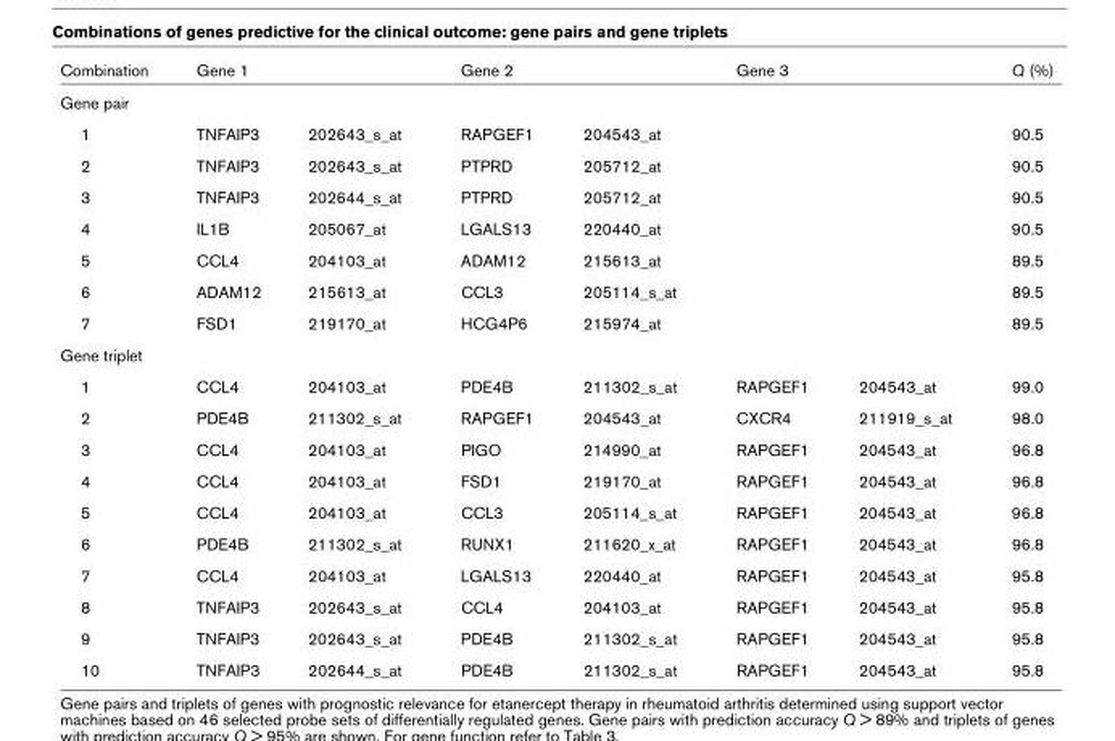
<table><thead><tr><td rowspan="2">Combination Gene pair</td><td colspan="2">Gene 1</td><td colspan="2">Gene 2</td><td colspan="2">Gene 3</td><td rowspan="2">Q (%)</td></tr><tr><td></td><td></td><td></td><td></td><td></td><td></td></tr></thead><tbody><tr><td>1</td><td>TNFAIP3</td><td>202643_s_at</td><td>RAPGEF1</td><td>204543_at</td><td></td><td></td><td>90.5</td></tr><tr><td>2</td><td>TNFAIP3</td><td>202643_s_at</td><td>PTPRD</td><td>205712_at</td><td></td><td></td><td>90.5</td></tr><tr><td>3</td><td>TNFAIP3</td><td>202644_s_at</td><td>PTPRD</td><td>205712_at</td><td></td><td></td><td>90.5</td></tr><tr><td>4</td><td>IL1B</td><td>205067_at</td><td>LGALS13</td><td>220440_at</td><td></td><td></td><td>90.5</td></tr><tr><td>5</td><td>CCL4</td><td>204103_at</td><td>ADAM12</td><td>215613_at</td><td></td><td></td><td>89.5</td></tr><tr><td>6</td><td>ADAM12</td><td>215613_at</td><td>CCL3</td><td>205114_s_at</td><td></td><td></td><td>89.5</td></tr><tr><td>7</td><td>FSD1</td><td>219170_at</td><td>HCG4P6</td><td>215974_at</td><td></td><td></td><td>89.5</td></tr><tr><td colspan="8">Gene triplet</td></tr><tr><td>1</td><td>CCL4</td><td>204103_at</td><td>PDE4B</td><td>211302_s_at</td><td>RAPGEF1</td><td>204543_at</td><td>99.0</td></tr><tr><td>2</td><td>PDE4B</td><td>211302_s_at</td><td>RAPGEF1</td><td>204543_at</td><td>CXCR4</td><td>211919_s_at</td><td>98.0</td></tr><tr><td>3</td><td>CCL4</td><td>204103_at</td><td>PIGO</td><td>214990_at</td><td>RAPGEF1</td><td>204543_at</td><td>96.8</td></tr><tr><td>4</td><td>CCL4</td><td>204103_at</td><td>FSD1</td><td>219170_at</td><td>RAPGEF1</td><td>204543_at</td><td>96.8</td></tr><tr><td>5</td><td>CCL4</td><td>204103_at</td><td>CCL3</td><td>205114_s_at</td><td>RAPGEF1</td><td>204543_at</td><td>96.8</td></tr><tr><td>6</td><td>PDE4B</td><td>211302_s_at</td><td>RUNX1</td><td>211620_x_at</td><td>RAPGEF1</td><td>204543_at</td><td>96.8</td></tr><tr><td>7</td><td>CCL4</td><td>204103_at</td><td>LGALS13</td><td>220440_at</td><td>RAPGEF1</td><td>204543_at</td><td>95.8</td></tr><tr><td>8</td><td>TNFAIP3</td><td>202643_s_at</td><td>CCL4</td><td>204103_at</td><td>RAPGEF1</td><td>204543_at</td><td>95.8</td></tr><tr><td>9</td><td>TNFAIP3</td><td>202643_s_at</td><td>PDE4B</td><td>211302_s_at</td><td>RAPGEF1</td><td>204543_at</td><td>95.8</td></tr><tr><td>10</td><td>TNFAIP3</td><td>202644_s_at</td><td>PDE4B</td><td>211302_s_at</td><td>RAPGEF1</td><td>204543_at</td><td>95.8</td></tr></tbody></table>